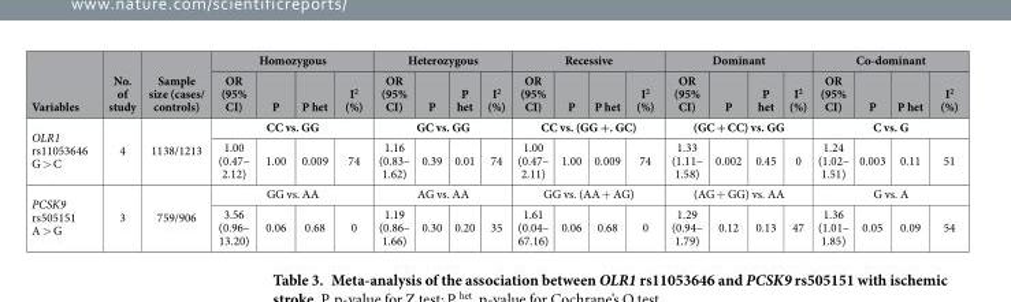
<table><thead><tr><td rowspan="2">Variables</td><td rowspan="2">No. of study</td><td rowspan="2">Sample size (cases/ controls)</td><td colspan="4">Homozygous</td><td colspan="4">Heterozygous</td><td colspan="4">Recessive</td><td colspan="4">Dominant</td><td colspan="4">Co-dominant</td></tr><tr><td>OR (95% CI)</td><td>P</td><td>P het</td><td>I<sup>2</sup> (%)</td><td>OR (95% CI)</td><td>P</td><td>P het</td><td>I<sup>2</sup> (%)</td><td>OR (95% CI)</td><td>P</td><td>P het</td><td>I<sup>2</sup> (%)</td><td>OR (95% CI)</td><td>P</td><td>P het</td><td>I<sup>2</sup> (%)</td><td>OR (95% CI)</td><td>P</td><td>P het</td><td>I<sup>2</sup> (%)</td></tr></thead><tbody><tr><td rowspan="2">OLR1 rs11053646 G &gt; C</td><td rowspan="2">4</td><td rowspan="2">1138/1213</td><td colspan="4">CC vs. GG</td><td colspan="3">GC vs. GG</td><td></td><td colspan="4">CC vs. (GG +. GC)</td><td colspan="4">(GC + CC) vs. GG</td><td colspan="4">C vs. G</td></tr><tr><td>1.00 (0.47– 2.12)</td><td>1.00</td><td>0.009</td><td>74</td><td>1.16 (0.83– 1.62)</td><td>0.39</td><td>0.01</td><td>74</td><td>1.00 (0.47– 2.11)</td><td>1.00</td><td>0.009</td><td>74</td><td>1.33 (1.11– 1.58)</td><td>0.002</td><td>0.45</td><td>0</td><td>1.24 (1.02– 1.51)</td><td>0.003</td><td>0.11</td><td>51</td></tr><tr><td rowspan="2">PCSK9 rs505151 A &gt; G</td><td rowspan="2">3</td><td rowspan="2">759/906</td><td colspan="4">GG vs. AA</td><td colspan="3">AG vs. AA</td><td></td><td colspan="4">GG vs. (AA + AG)</td><td colspan="4">(AG + GG) vs. AA</td><td colspan="4">G vs. A</td></tr><tr><td>3.56 (0.96– 13.20)</td><td>0.06</td><td>0.68</td><td>0</td><td>1.19 (0.86– 1.66)</td><td>0.30</td><td>0.20</td><td>35</td><td>1.61 (0.04– 67.16)</td><td>0.06</td><td>0.68</td><td>0</td><td>1.29 (0.94– 1.79)</td><td>0.12</td><td>0.13</td><td>47</td><td>1.36 (1.01– 1.85)</td><td>0.05</td><td>0.09</td><td>54</td></tr></tbody></table>